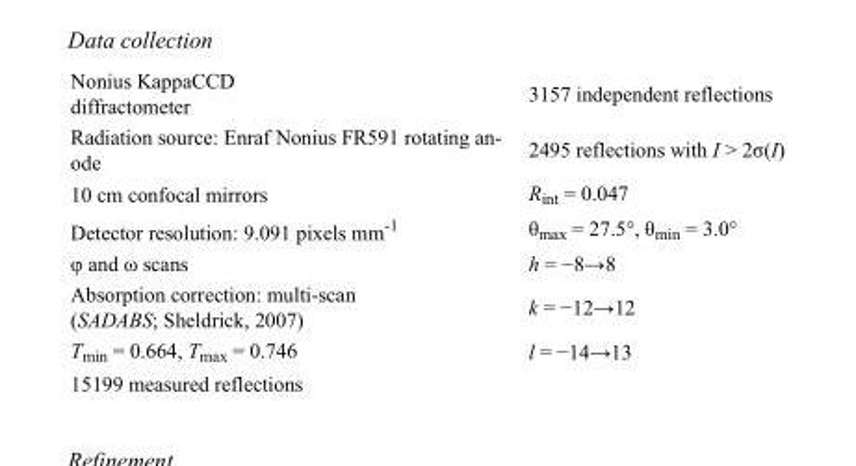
<table><tbody><tr><td>Nonius KappaCCD diffractometer</td><td>3157 independent reflections</td></tr><tr><td>Radiation source: Enraf Nonius FR591 rotating an- ode</td><td>2495 reflections with I &gt; 2σ(I)</td></tr><tr><td>10 cm confocal mirrors</td><td>R<sub>int</sub> = 0.047</td></tr><tr><td>Detector resolution: 9.091 pixels mm<sup>-1</sup></td><td>θ<sub>max</sub> = 27.5°, θ<sub>min</sub> = 3.0°</td></tr><tr><td>φ and ω scans</td><td>h = −8→8</td></tr><tr><td>Absorption correction: multi-scan (SADABS; Sheldrick, 2007)</td><td>k = −12→12</td></tr><tr><td>T<sub>min</sub> = 0.664, T<sub>max</sub> = 0.746</td><td>l = −14→13</td></tr><tr><td>15199 measured reflections</td><td></td></tr></tbody></table>